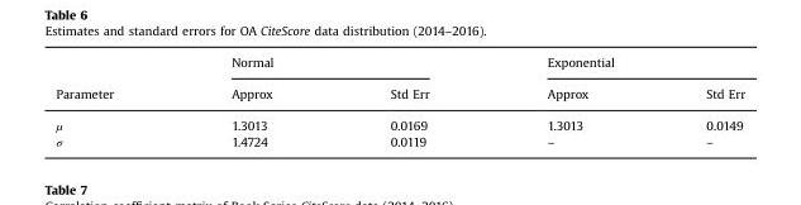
<table><thead><tr><td rowspan="2">Parameter</td><td colspan="2">Normal</td><td colspan="2">Exponential</td></tr><tr><td>Approx</td><td>Std Err</td><td>Approx</td><td>Std Err</td></tr></thead><tbody><tr><td>µ</td><td>1.3013</td><td>0.0169</td><td>1.3013</td><td>0.0149</td></tr><tr><td>σ</td><td>1.4724</td><td>0.0119</td><td>–</td><td>–</td></tr></tbody></table>